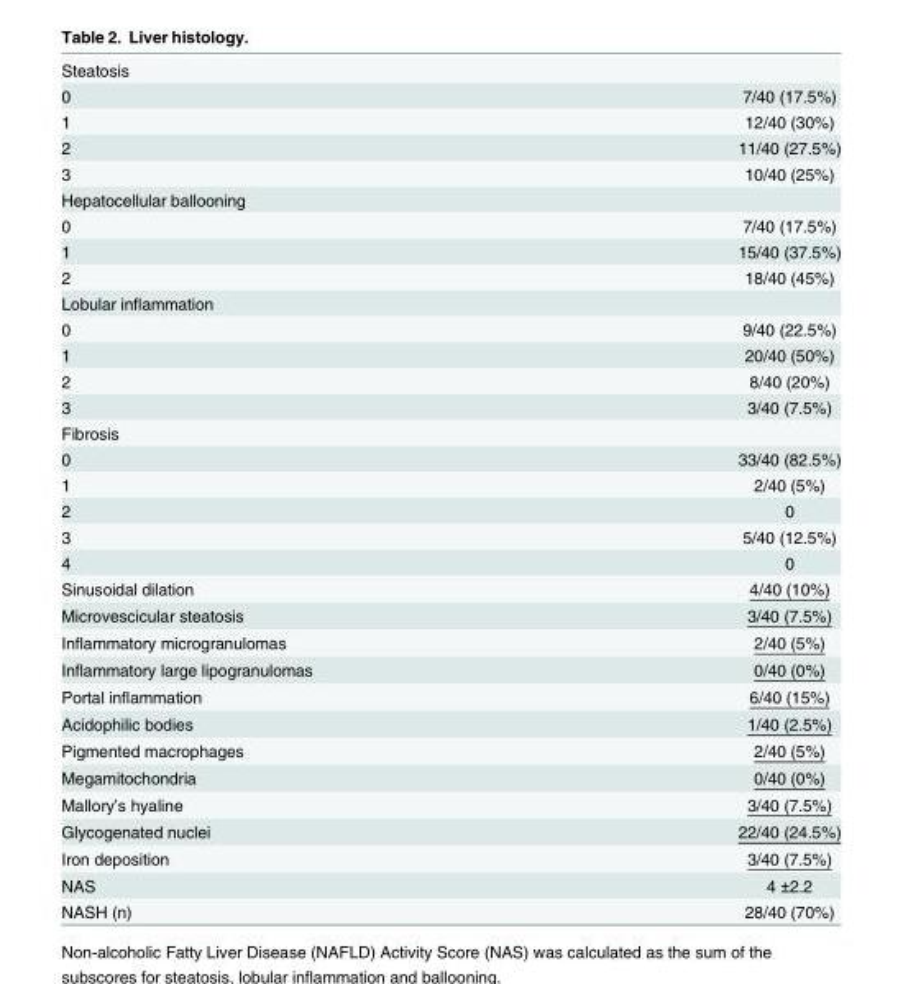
<table><tbody><tr><td colspan="2">Steatosis</td></tr><tr><td>0</td><td>7/40 (17.5%)</td></tr><tr><td>1</td><td>12/40 (30%)</td></tr><tr><td>2</td><td>11/40 (27.5%)</td></tr><tr><td>3</td><td>10/40 (25%)</td></tr><tr><td colspan="2">Hepatocellular ballooning</td></tr><tr><td>0</td><td>7/40 (17.5%)</td></tr><tr><td>1</td><td>15/40 (37.5%)</td></tr><tr><td>2</td><td>18/40 (45%)</td></tr><tr><td colspan="2">Lobular inflammation</td></tr><tr><td>0</td><td>9/40 (22.5%)</td></tr><tr><td>1</td><td>20/40 (50%)</td></tr><tr><td>2</td><td>8/40 (20%)</td></tr><tr><td>3</td><td>3/40 (7.5%)</td></tr><tr><td colspan="2">Fibrosis</td></tr><tr><td>0</td><td>33/40 (82.5%)</td></tr><tr><td>1</td><td>2/40 (5%)</td></tr><tr><td>2</td><td>0</td></tr><tr><td>3</td><td>5/40 (12.5%)</td></tr><tr><td>4</td><td>0</td></tr><tr><td>Sinusoidal dilation</td><td>4/40 (10%)</td></tr><tr><td>Microvescicular steatosis</td><td>3/40 (7.5%)</td></tr><tr><td>Inflammatory microgranulomas</td><td>2/40 (5%)</td></tr><tr><td>Inflammatory large lipogranulomas</td><td>0/40 (0%)</td></tr><tr><td>Portal inflammation</td><td>6/40 (15%)</td></tr><tr><td>Acidophilic bodies</td><td>1/40 (2.5%)</td></tr><tr><td>Pigmented macrophages</td><td>2/40 (5%)</td></tr><tr><td>Megamitochondria</td><td>0/40 (0%)</td></tr><tr><td>Mallory’s hyaline</td><td>3/40 (7.5%)</td></tr><tr><td>Glycogenated nuclei</td><td>22/40 (24.5%)</td></tr><tr><td>Iron deposition</td><td>3/40 (7.5%)</td></tr><tr><td>NAS</td><td>4 ±2.2</td></tr><tr><td>NASH (n)</td><td>28/40 (70%)</td></tr></tbody></table>